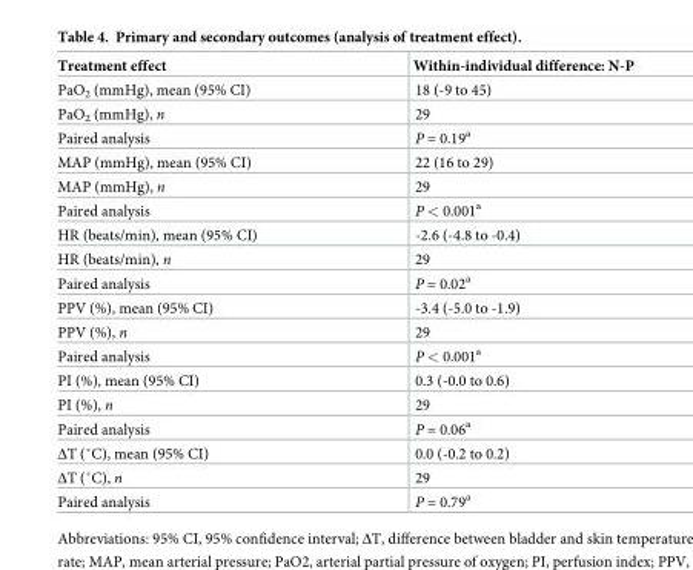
<table><thead><tr><td>Treatment effect</td><td>Within-individual difference: N-P</td></tr></thead><tbody><tr><td>PaO<sub>2</sub> (mmHg), mean (95% CI)</td><td>18 (-9 to 45)</td></tr><tr><td>PaO<sub>2</sub> (mmHg), n</td><td>29</td></tr><tr><td>Paired analysis</td><td>P = 0.19<sup>a</sup></td></tr><tr><td>MAP (mmHg), mean (95% CI)</td><td>22 (16 to 29)</td></tr><tr><td>MAP (mmHg), n</td><td>29</td></tr><tr><td>Paired analysis</td><td>P &lt; 0.001<sup>a</sup></td></tr><tr><td>HR (beats/min), mean (95% CI)</td><td>-2.6 (-4.8 to -0.4)</td></tr><tr><td>HR (beats/min), n</td><td>29</td></tr><tr><td>Paired analysis</td><td>P = 0.02<sup>a</sup></td></tr><tr><td>PPV (%), mean (95% CI)</td><td>-3.4 (-5.0 to -1.9)</td></tr><tr><td>PPV (%), n</td><td>29</td></tr><tr><td>Paired analysis</td><td>P &lt; 0.001<sup>a</sup></td></tr><tr><td>PI (%), mean (95% CI)</td><td>0.3 (-0.0 to 0.6)</td></tr><tr><td>PI (%), n</td><td>29</td></tr><tr><td>Paired analysis</td><td>P = 0.06<sup>a</sup></td></tr><tr><td>ΔT (˚C), mean (95% CI)</td><td>0.0 (-0.2 to 0.2)</td></tr><tr><td>ΔT (˚C), n</td><td>29</td></tr><tr><td>Paired analysis</td><td>P = 0.79<sup>a</sup></td></tr></tbody></table>